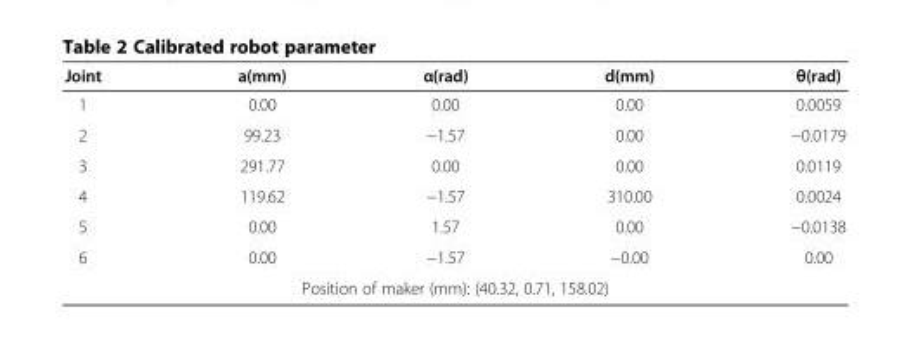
<table><thead><tr><td>Joint</td><td>a(mm)</td><td>α(rad)</td><td>d(mm)</td><td>θ(rad)</td></tr></thead><tbody><tr><td>1</td><td>0.00</td><td>0.00</td><td>0.00</td><td>0.0059</td></tr><tr><td>2</td><td>99.23</td><td>−1.57</td><td>0.00</td><td>−0.0179</td></tr><tr><td>3</td><td>291.77</td><td>0.00</td><td>0.00</td><td>0.0119</td></tr><tr><td>4</td><td>119.62</td><td>−1.57</td><td>310.00</td><td>0.0024</td></tr><tr><td>5</td><td>0.00</td><td>1.57</td><td>0.00</td><td>−0.0138</td></tr><tr><td>6</td><td>0.00</td><td>−1.57</td><td>−0.00</td><td>0.00</td></tr><tr><td colspan="5">Position of maker (mm): (40.32, 0.71, 158.02)</td></tr></tbody></table>